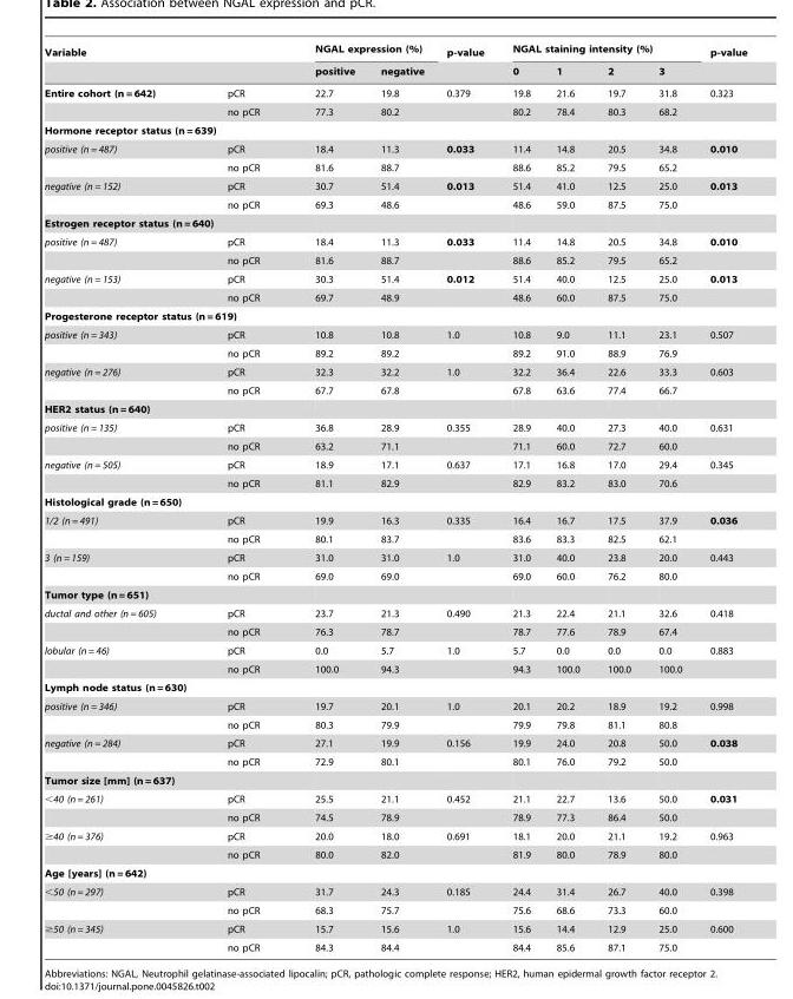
<table><thead><tr><td colspan="2">Variable</td><td colspan="2">NGAL expression (%)</td><td rowspan="2">p-value</td><td colspan="4">NGAL staining intensity (%)</td><td rowspan="2">p-value</td></tr><tr><td></td><td></td><td>positive</td><td>negative</td><td>0</td><td>1</td><td>2</td><td>3</td></tr></thead><tbody><tr><td rowspan="2">Entire cohort (n = 642)</td><td>pCR</td><td>22.7</td><td>19.8</td><td>0.379</td><td>19.8</td><td>21.6</td><td>19.7</td><td>31.8</td><td>0.323</td></tr><tr><td>no pCR</td><td>77.3</td><td>80.2</td><td></td><td>80.2</td><td>78.4</td><td>80.3</td><td>68.2</td><td></td></tr><tr><td colspan="10">Hormone receptor status (n = 639)</td></tr><tr><td rowspan="2">positive (n = 487)</td><td>pCR</td><td>18.4</td><td>11.3</td><td>0.033</td><td>11.4</td><td>14.8</td><td>20.5</td><td>34.8</td><td>0.010</td></tr><tr><td>no pCR</td><td>81.6</td><td>88.7</td><td></td><td>88.6</td><td>85.2</td><td>79.5</td><td>65.2</td><td></td></tr><tr><td rowspan="2">negative (n = 152)</td><td>pCR</td><td>30.7</td><td>51.4</td><td>0.013</td><td>51.4</td><td>41.0</td><td>12.5</td><td>25.0</td><td>0.013</td></tr><tr><td>no pCR</td><td>69.3</td><td>48.6</td><td></td><td>48.6</td><td>59.0</td><td>87.5</td><td>75.0</td><td></td></tr><tr><td colspan="10">Estrogen receptor status (n = 640)</td></tr><tr><td rowspan="2">positive (n = 487)</td><td>pCR</td><td>18.4</td><td>11.3</td><td>0.033</td><td>11.4</td><td>14.8</td><td>20.5</td><td>34.8</td><td>0.010</td></tr><tr><td>no pCR</td><td>81.6</td><td>88.7</td><td></td><td>88.6</td><td>85.2</td><td>79.5</td><td>65.2</td><td></td></tr><tr><td rowspan="2">negative (n = 153)</td><td>pCR</td><td>30.3</td><td>51.4</td><td>0.012</td><td>51.4</td><td>40.0</td><td>12.5</td><td>25.0</td><td>0.013</td></tr><tr><td>no pCR</td><td>69.7</td><td>48.9</td><td></td><td>48.6</td><td>60.0</td><td>87.5</td><td>75.0</td><td></td></tr><tr><td colspan="10">Progesterone receptor status (n = 619)</td></tr><tr><td rowspan="2">positive (n = 343)</td><td>pCR</td><td>10.8</td><td>10.8</td><td>1.0</td><td>10.8</td><td>9.0</td><td>11.1</td><td>23.1</td><td>0.507</td></tr><tr><td>no pCR</td><td>89.2</td><td>89.2</td><td></td><td>89.2</td><td>91.0</td><td>88.9</td><td>76.9</td><td></td></tr><tr><td rowspan="2">negative (n = 276)</td><td>pCR</td><td>32.3</td><td>32.2</td><td>1.0</td><td>32.2</td><td>36.4</td><td>22.6</td><td>33.3</td><td>0.603</td></tr><tr><td>no pCR</td><td>67.7</td><td>67.8</td><td></td><td>67.8</td><td>63.6</td><td>77.4</td><td>66.7</td><td></td></tr><tr><td colspan="10">HER2 status (n = 640)</td></tr><tr><td rowspan="2">positive (n = 135)</td><td>pCR</td><td>36.8</td><td>28.9</td><td>0.355</td><td>28.9</td><td>40.0</td><td>27.3</td><td>40.0</td><td>0.631</td></tr><tr><td>no pCR</td><td>63.2</td><td>71.1</td><td></td><td>71.1</td><td>60.0</td><td>72.7</td><td>60.0</td><td></td></tr><tr><td rowspan="2">negative (n = 505)</td><td>pCR</td><td>18.9</td><td>17.1</td><td>0.637</td><td>17.1</td><td>16.8</td><td>17.0</td><td>29.4</td><td>0.345</td></tr><tr><td>no pCR</td><td>81.1</td><td>82.9</td><td></td><td>82.9</td><td>83.2</td><td>83.0</td><td>70.6</td><td></td></tr><tr><td colspan="10">Histological grade (n = 650)</td></tr><tr><td rowspan="2">1/2 (n = 491)</td><td>pCR</td><td>19.9</td><td>16.3</td><td>0.335</td><td>16.4</td><td>16.7</td><td>17.5</td><td>37.9</td><td>0.036</td></tr><tr><td>no pCR</td><td>80.1</td><td>83.7</td><td></td><td>83.6</td><td>83.3</td><td>82.5</td><td>62.1</td><td></td></tr><tr><td rowspan="2">3 (n = 159)</td><td>pCR</td><td>31.0</td><td>31.0</td><td>1.0</td><td>31.0</td><td>40.0</td><td>23.8</td><td>20.0</td><td>0.443</td></tr><tr><td>no pCR</td><td>69.0</td><td>69.0</td><td></td><td>69.0</td><td>60.0</td><td>76.2</td><td>80.0</td><td></td></tr><tr><td colspan="10">Tumor type (n = 651)</td></tr><tr><td rowspan="2">ductal and other (n = 605)</td><td>pCR</td><td>23.7</td><td>21.3</td><td>0.490</td><td>21.3</td><td>22.4</td><td>21.1</td><td>32.6</td><td>0.418</td></tr><tr><td>no pCR</td><td>76.3</td><td>78.7</td><td></td><td>78.7</td><td>77.6</td><td>78.9</td><td>67.4</td><td></td></tr><tr><td rowspan="2">lobular (n = 46)</td><td>pCR</td><td>0.0</td><td>5.7</td><td>1.0</td><td>5.7</td><td>0.0</td><td>0.0</td><td>0.0</td><td>0.883</td></tr><tr><td>no pCR</td><td>100.0</td><td>94.3</td><td></td><td>94.3</td><td>100.0</td><td>100.0</td><td>100.0</td><td></td></tr><tr><td colspan="10">Lymph node status (n = 630)</td></tr><tr><td rowspan="2">positive (n = 346)</td><td>pCR</td><td>19.7</td><td>20.1</td><td>1.0</td><td>20.1</td><td>20.2</td><td>18.9</td><td>19.2</td><td>0.998</td></tr><tr><td>no pCR</td><td>80.3</td><td>79.9</td><td></td><td>79.9</td><td>79.8</td><td>81.1</td><td>80.8</td><td></td></tr><tr><td rowspan="2">negative (n = 284)</td><td>pCR</td><td>27.1</td><td>19.9</td><td>0.156</td><td>19.9</td><td>24.0</td><td>20.8</td><td>50.0</td><td>0.038</td></tr><tr><td>no pCR</td><td>72.9</td><td>80.1</td><td></td><td>80.1</td><td>76.0</td><td>79.2</td><td>50.0</td><td></td></tr><tr><td colspan="10">Tumor size [mm] (n = 637)</td></tr><tr><td rowspan="2">&lt;40 (n = 261)</td><td>pCR</td><td>25.5</td><td>21.1</td><td>0.452</td><td>21.1</td><td>22.7</td><td>13.6</td><td>50.0</td><td>0.031</td></tr><tr><td>no pCR</td><td>74.5</td><td>78.9</td><td></td><td>78.9</td><td>77.3</td><td>86.4</td><td>50.0</td><td></td></tr><tr><td rowspan="2">≥40 (n = 376)</td><td>pCR</td><td>20.0</td><td>18.0</td><td>0.691</td><td>18.1</td><td>20.0</td><td>21.1</td><td>19.2</td><td>0.963</td></tr><tr><td>no pCR</td><td>80.0</td><td>82.0</td><td></td><td>81.9</td><td>80.0</td><td>78.9</td><td>80.0</td><td></td></tr><tr><td colspan="10">Age [years] (n = 642)</td></tr><tr><td rowspan="2">&lt;50 (n = 297)</td><td>pCR</td><td>31.7</td><td>24.3</td><td>0.185</td><td>24.4</td><td>31.4</td><td>26.7</td><td>40.0</td><td>0.398</td></tr><tr><td>no pCR</td><td>68.3</td><td>75.7</td><td></td><td>75.6</td><td>68.6</td><td>73.3</td><td>60.0</td><td></td></tr><tr><td rowspan="2">≥50 (n = 345)</td><td>pCR</td><td>15.7</td><td>15.6</td><td>1.0</td><td>15.6</td><td>14.4</td><td>12.9</td><td>25.0</td><td>0.600</td></tr><tr><td>no pCR</td><td>84.3</td><td>84.4</td><td></td><td>84.4</td><td>85.6</td><td>87.1</td><td>75.0</td><td></td></tr></tbody></table>